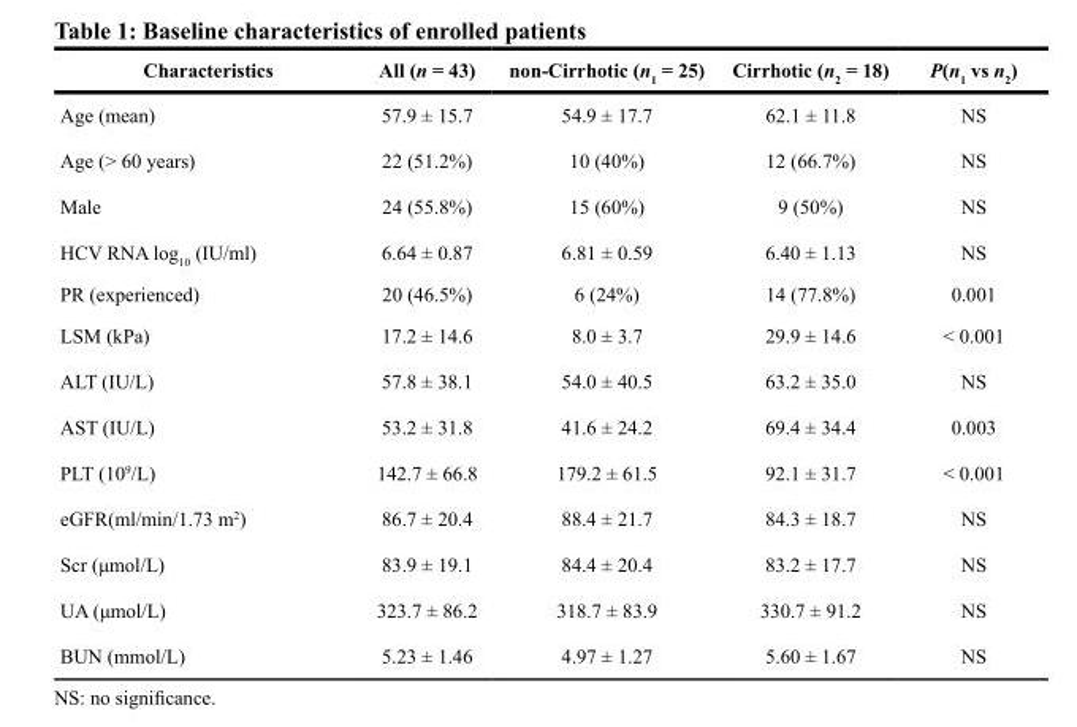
<table><thead><tr><td>Characteristics</td><td>All (n = 43)</td><td>non-Cirrhotic (n<sub>1</sub> = 25)</td><td>Cirrhotic (n<sub>2</sub> = 18)</td><td>P(n<sub>1</sub> vs n<sub>2</sub>)</td></tr></thead><tbody><tr><td>Age (mean)</td><td>57.9 ± 15.7</td><td>54.9 ± 17.7</td><td>62.1 ± 11.8</td><td>NS</td></tr><tr><td>Age (&gt; 60 years)</td><td>22 (51.2%)</td><td>10 (40%)</td><td>12 (66.7%)</td><td>NS</td></tr><tr><td>Male</td><td>24 (55.8%)</td><td>15 (60%)</td><td>9 (50%)</td><td>NS</td></tr><tr><td>HCV RNA log<sub>10</sub> (IU/ml)</td><td>6.64 ± 0.87</td><td>6.81 ± 0.59</td><td>6.40 ± 1.13</td><td>NS</td></tr><tr><td>PR (experienced)</td><td>20 (46.5%)</td><td>6 (24%)</td><td>14 (77.8%)</td><td>0.001</td></tr><tr><td>LSM (kPa)</td><td>17.2 ± 14.6</td><td>8.0 ± 3.7</td><td>29.9 ± 14.6</td><td>&lt; 0.001</td></tr><tr><td>ALT (IU/L)</td><td>57.8 ± 38.1</td><td>54.0 ± 40.5</td><td>63.2 ± 35.0</td><td>NS</td></tr><tr><td>AST (IU/L)</td><td>53.2 ± 31.8</td><td>41.6 ± 24.2</td><td>69.4 ± 34.4</td><td>0.003</td></tr><tr><td>PLT (10<sup>9</sup>/L)</td><td>142.7 ± 66.8</td><td>179.2 ± 61.5</td><td>92.1 ± 31.7</td><td>&lt; 0.001</td></tr><tr><td>eGFR(ml/min/1.73 m<sup>2</sup>)</td><td>86.7 ± 20.4</td><td>88.4 ± 21.7</td><td>84.3 ± 18.7</td><td>NS</td></tr><tr><td>Scr (μmol/L)</td><td>83.9 ± 19.1</td><td>84.4 ± 20.4</td><td>83.2 ± 17.7</td><td>NS</td></tr><tr><td>UA (μmol/L)</td><td>323.7 ± 86.2</td><td>318.7 ± 83.9</td><td>330.7 ± 91.2</td><td>NS</td></tr><tr><td>BUN (mmol/L)</td><td>5.23 ± 1.46</td><td>4.97 ± 1.27</td><td>5.60 ± 1.67</td><td>NS</td></tr></tbody></table>